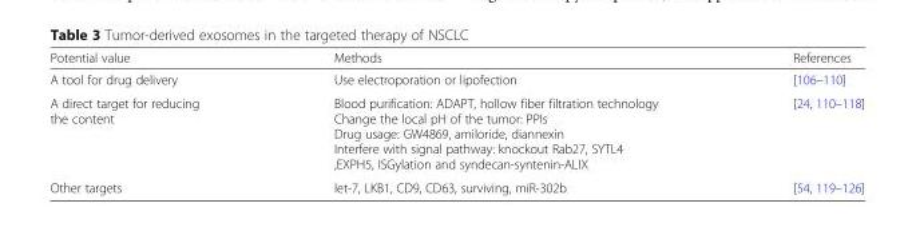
<table><thead><tr><td>Potential value</td><td>Methods</td><td>References</td></tr></thead><tbody><tr><td>A tool for drug delivery</td><td>Use electroporation or lipofection</td><td>[106–110]</td></tr><tr><td>A direct target for reducing the content</td><td>Blood purification: ADAPT, hollow fiber filtration technology Change the local pH of the tumor: PPIs Drug usage: GW4869, amiloride, diannexin Interfere with signal pathway: knockout Rab27, SYTL4 ,EXPH5, ISGylation and syndecan-syntenin-ALIX</td><td>[24, 110–118]</td></tr><tr><td>Other targets</td><td>let-7, LKB1, CD9, CD63, surviving, miR-302b</td><td>[54, 119–126]</td></tr></tbody></table>